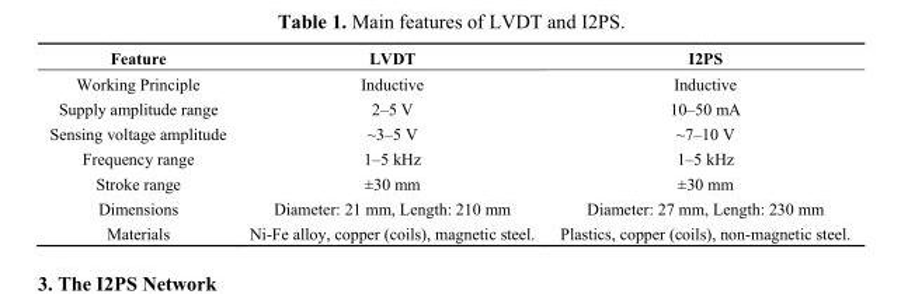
<table><thead><tr><td>Feature</td><td>LVDT</td><td>I2PS</td></tr></thead><tbody><tr><td>Working Principle</td><td>Inductive</td><td>Inductive</td></tr><tr><td>Supply amplitude range</td><td>2–5 V</td><td>10–50 mA</td></tr><tr><td>Sensing voltage amplitude</td><td>~3–5 V</td><td>~7–10 V</td></tr><tr><td>Frequency range</td><td>1–5 kHz</td><td>1–5 kHz</td></tr><tr><td>Stroke range</td><td>±30 mm</td><td>±30 mm</td></tr><tr><td>Dimensions</td><td>Diameter: 21 mm, Length: 210 mm</td><td>Diameter: 27 mm, Length: 230 mm</td></tr><tr><td>Materials</td><td>Ni-Fe alloy, copper (coils), magnetic steel.</td><td>Plastics, copper (coils), non-magnetic steel.</td></tr></tbody></table>